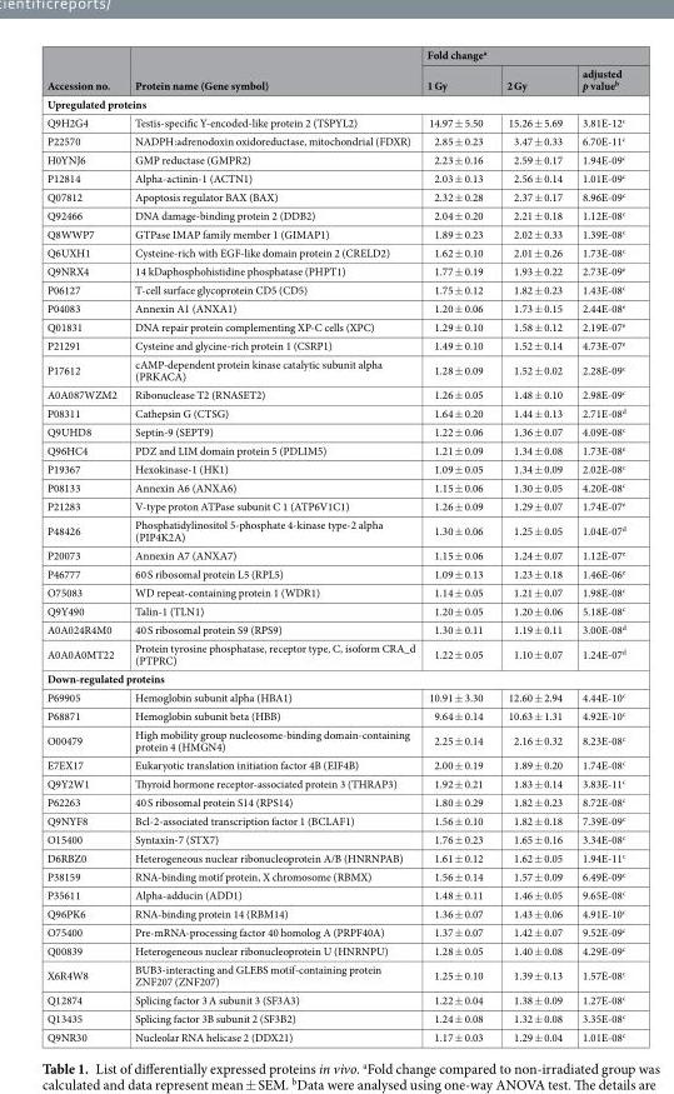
<table><thead><tr><td rowspan="2">Accession no.</td><td rowspan="2">Protein name (Gene symbol)</td><td colspan="3">Fold change<sup>a</sup></td></tr><tr><td>1 Gy</td><td>2 Gy</td><td>adjusted p value<sup>b</sup></td></tr></thead><tbody><tr><td colspan="5">Upregulated proteins</td></tr><tr><td>Q9H2G4</td><td>Testis-specific Y-encoded-like protein 2 (TSPYL2)</td><td>14.97 ± 5.50</td><td>15.26 ± 5.69</td><td>3.81E-12<sup>c</sup></td></tr><tr><td>P22570</td><td>NADPH:adrenodoxin oxidoreductase, mitochondrial (FDXR)</td><td>2.85 ± 0.23</td><td>3.47 ± 0.33</td><td>6.70E-11<sup>c</sup></td></tr><tr><td>H0YNJ6</td><td>GMP reductase (GMPR2)</td><td>2.23 ± 0.16</td><td>2.59 ± 0.17</td><td>1.94E-09<sup>c</sup></td></tr><tr><td>P12814</td><td>Alpha-actinin-1 (ACTN1)</td><td>2.03 ± 0.13</td><td>2.56 ± 0.14</td><td>1.01E-09<sup>c</sup></td></tr><tr><td>Q07812</td><td>Apoptosis regulator BAX (BAX)</td><td>2.32 ± 0.28</td><td>2.37 ± 0.17</td><td>8.96E-09<sup>c</sup></td></tr><tr><td>Q92466</td><td>DNA damage-binding protein 2 (DDB2)</td><td>2.04 ± 0.20</td><td>2.21 ± 0.18</td><td>1.12E-08<sup>c</sup></td></tr><tr><td>Q8WWP7</td><td>GTPase IMAP family member 1 (GIMAP1)</td><td>1.89 ± 0.23</td><td>2.02 ± 0.33</td><td>1.39E-08<sup>c</sup></td></tr><tr><td>Q6UXH1</td><td>Cysteine-rich with EGF-like domain protein 2 (CRELD2)</td><td>1.62 ± 0.10</td><td>2.01 ± 0.26</td><td>1.73E-08<sup>c</sup></td></tr><tr><td>Q9NRX4</td><td>14 kDaphosphohistidine phosphatase (PHPT1)</td><td>1.77 ± 0.19</td><td>1.93 ± 0.22</td><td>2.73E-09<sup>e</sup></td></tr><tr><td>P06127</td><td>T-cell surface glycoprotein CD5 (CD5)</td><td>1.75 ± 0.12</td><td>1.82 ± 0.23</td><td>1.43E-08<sup>c</sup></td></tr><tr><td>P04083</td><td>Annexin A1 (ANXA1)</td><td>1.20 ± 0.06</td><td>1.73 ± 0.15</td><td>2.44E-08<sup>e</sup></td></tr><tr><td>Q01831</td><td>DNA repair protein complementing XP-C cells (XPC)</td><td>1.29 ± 0.10</td><td>1.58 ± 0.12</td><td>2.19E-07<sup>e</sup></td></tr><tr><td>P21291</td><td>Cysteine and glycine-rich protein 1 (CSRP1)</td><td>1.49 ± 0.10</td><td>1.52 ± 0.14</td><td>4.73E-07<sup>e</sup></td></tr><tr><td>P17612</td><td>cAMP-dependent protein kinase catalytic subunit alpha (PRKACA)</td><td>1.28 ± 0.09</td><td>1.52 ± 0.02</td><td>2.28E-09<sup>c</sup></td></tr><tr><td>A0A087WZM2</td><td>Ribonuclease T2 (RNASET2)</td><td>1.26 ± 0.05</td><td>1.48 ± 0.10</td><td>2.98E-09<sup>c</sup></td></tr><tr><td>P08311</td><td>Cathepsin G (CTSG)</td><td>1.64 ± 0.20</td><td>1.44 ± 0.13</td><td>2.71E-08<sup>d</sup></td></tr><tr><td>Q9UHD8</td><td>Septin-9 (SEPT9)</td><td>1.22 ± 0.06</td><td>1.36 ± 0.07</td><td>4.09E-08<sup>c</sup></td></tr><tr><td>Q96HC4</td><td>PDZ and LIM domain protein 5 (PDLIM5)</td><td>1.21 ± 0.09</td><td>1.34 ± 0.08</td><td>1.73E-08<sup>e</sup></td></tr><tr><td>P19367</td><td>Hexokinase-1 (HK1)</td><td>1.09 ± 0.05</td><td>1.34 ± 0.09</td><td>2.02E-08<sup>c</sup></td></tr><tr><td>P08133</td><td>Annexin A6 (ANXA6)</td><td>1.15 ± 0.06</td><td>1.30 ± 0.05</td><td>4.20E-08<sup>c</sup></td></tr><tr><td>P21283</td><td>V-type proton ATPase subunit C 1 (ATP6V1C1)</td><td>1.26 ± 0.09</td><td>1.29 ± 0.07</td><td>1.74E-07<sup>e</sup></td></tr><tr><td>P48426</td><td>Phosphatidylinositol 5-phosphate 4-kinase type-2 alpha (PIP4K2A)</td><td>1.30 ± 0.06</td><td>1.25 ± 0.05</td><td>1.04E-07<sup>d</sup></td></tr><tr><td>P20073</td><td>Annexin A7 (ANXA7)</td><td>1.15 ± 0.06</td><td>1.24 ± 0.07</td><td>1.12E-07<sup>e</sup></td></tr><tr><td>P46777</td><td>60 S ribosomal protein L5 (RPL5)</td><td>1.09 ± 0.13</td><td>1.23 ± 0.18</td><td>1.46E-06<sup>e</sup></td></tr><tr><td>O75083</td><td>WD repeat-containing protein 1 (WDR1)</td><td>1.14 ± 0.05</td><td>1.21 ± 0.07</td><td>1.98E-08<sup>c</sup></td></tr><tr><td>Q9Y490</td><td>Talin-1 (TLN1)</td><td>1.20 ± 0.05</td><td>1.20 ± 0.06</td><td>5.18E-08<sup>c</sup></td></tr><tr><td>A0A024R4M0</td><td>40 S ribosomal protein S9 (RPS9)</td><td>1.30 ± 0.11</td><td>1.19 ± 0.11</td><td>3.00E-08<sup>d</sup></td></tr><tr><td>A0A0A0MT22</td><td>Protein tyrosine phosphatase, receptor type, C, isoform CRA_d (PTPRC)</td><td>1.22 ± 0.05</td><td>1.10 ± 0.07</td><td>1.24E-07<sup>d</sup></td></tr><tr><td colspan="5">Down-regulated proteins</td></tr><tr><td>P69905</td><td>Hemoglobin subunit alpha (HBA1)</td><td>10.91 ± 3.30</td><td>12.60 ± 2.94</td><td>4.44E-10<sup>c</sup></td></tr><tr><td>P68871</td><td>Hemoglobin subunit beta (HBB)</td><td>9.64 ± 0.14</td><td>10.63 ± 1.31</td><td>4.92E-10<sup>c</sup></td></tr><tr><td>O00479</td><td>High mobility group nucleosome-binding domain-containing protein 4 (HMGN4)</td><td>2.25 ± 0.14</td><td>2.16 ± 0.32</td><td>8.23E-08<sup>c</sup></td></tr><tr><td>E7EX17</td><td>Eukaryotic translation initiation factor 4B (EIF4B)</td><td>2.00 ± 0.19</td><td>1.89 ± 0.20</td><td>1.74E-08<sup>c</sup></td></tr><tr><td>Q9Y2W1</td><td>Thyroid hormone receptor-associated protein 3 (THRAP3)</td><td>1.92 ± 0.21</td><td>1.83 ± 0.14</td><td>3.83E-11<sup>c</sup></td></tr><tr><td>P62263</td><td>40 S ribosomal protein S14 (RPS14)</td><td>1.80 ± 0.29</td><td>1.82 ± 0.23</td><td>8.72E-08<sup>c</sup></td></tr><tr><td>Q9NYF8</td><td>Bcl-2-associated transcription factor 1 (BCLAF1)</td><td>1.56 ± 0.10</td><td>1.82 ± 0.18</td><td>7.39E-09<sup>c</sup></td></tr><tr><td>O15400</td><td>Syntaxin-7 (STX7)</td><td>1.76 ± 0.23</td><td>1.65 ± 0.16</td><td>3.34E-08<sup>c</sup></td></tr><tr><td>D6RBZ0</td><td>Heterogeneous nuclear ribonucleoprotein A/B (HNRNPAB)</td><td>1.61 ± 0.12</td><td>1.62 ± 0.05</td><td>1.94E-11<sup>c</sup></td></tr><tr><td>P38159</td><td>RNA-binding motif protein, X chromosome (RBMX)</td><td>1.56 ± 0.14</td><td>1.57 ± 0.09</td><td>6.49E-09<sup>c</sup></td></tr><tr><td>P35611</td><td>Alpha-adducin (ADD1)</td><td>1.48 ± 0.11</td><td>1.46 ± 0.05</td><td>9.65E-08<sup>c</sup></td></tr><tr><td>Q96PK6</td><td>RNA-binding protein 14 (RBM14)</td><td>1.36 ± 0.07</td><td>1.43 ± 0.06</td><td>4.91E-10<sup>c</sup></td></tr><tr><td>O75400</td><td>Pre-mRNA-processing factor 40 homolog A (PRPF40A)</td><td>1.37 ± 0.07</td><td>1.42 ± 0.07</td><td>9.52E-09<sup>c</sup></td></tr><tr><td>Q00839</td><td>Heterogeneous nuclear ribonucleoprotein U (HNRNPU)</td><td>1.28 ± 0.05</td><td>1.40 ± 0.08</td><td>4.29E-09<sup>c</sup></td></tr><tr><td>X6R4W8</td><td>BUB3-interacting and GLEBS motif-containing protein ZNF207 (ZNF207)</td><td>1.25 ± 0.10</td><td>1.39 ± 0.13</td><td>1.57E-08<sup>c</sup></td></tr><tr><td>Q12874</td><td>Splicing factor 3 A subunit 3 (SF3A3)</td><td>1.22 ± 0.04</td><td>1.38 ± 0.09</td><td>1.27E-08<sup>c</sup></td></tr><tr><td>Q13435</td><td>Splicing factor 3B subunit 2 (SF3B2)</td><td>1.24 ± 0.08</td><td>1.32 ± 0.08</td><td>3.35E-08<sup>c</sup></td></tr><tr><td>Q9NR30</td><td>Nucleolar RNA helicase 2 (DDX21)</td><td>1.17 ± 0.03</td><td>1.29 ± 0.04</td><td>1.01E-08<sup>c</sup></td></tr></tbody></table>